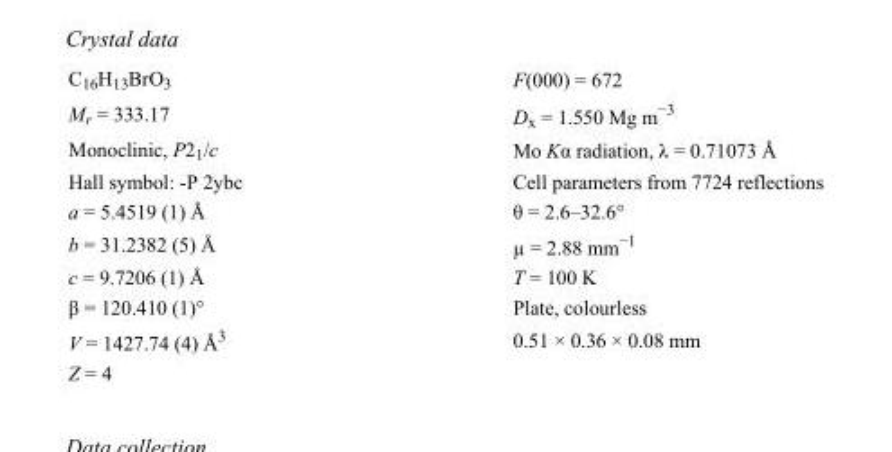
<table><tbody><tr><td>C<sub>16</sub>H<sub>13</sub>BrO<sub>3</sub></td><td>F(000) = 672</td></tr><tr><td>M<sub>r</sub> = 333.17</td><td>D<sub>x</sub> = 1.550 Mg m<sup>−3</sup></td></tr><tr><td>Monoclinic, P2<sub>1</sub>/c</td><td>Mo Kα radiation, λ = 0.71073 Å</td></tr><tr><td>Hall symbol: -P 2ybc</td><td>Cell parameters from 7724 reflections</td></tr><tr><td>a = 5.4519 (1) Å</td><td>θ = 2.6–32.6°</td></tr><tr><td>b = 31.2382 (5) Å</td><td>µ = 2.88 mm<sup>−1</sup></td></tr><tr><td>c = 9.7206 (1) Å</td><td>T = 100 K</td></tr><tr><td>β = 120.410 (1)°</td><td>Plate, colourless</td></tr><tr><td>V = 1427.74 (4) Å<sup>3</sup></td><td>0.51 × 0.36 × 0.08 mm</td></tr><tr><td>Z = 4</td><td></td></tr></tbody></table>